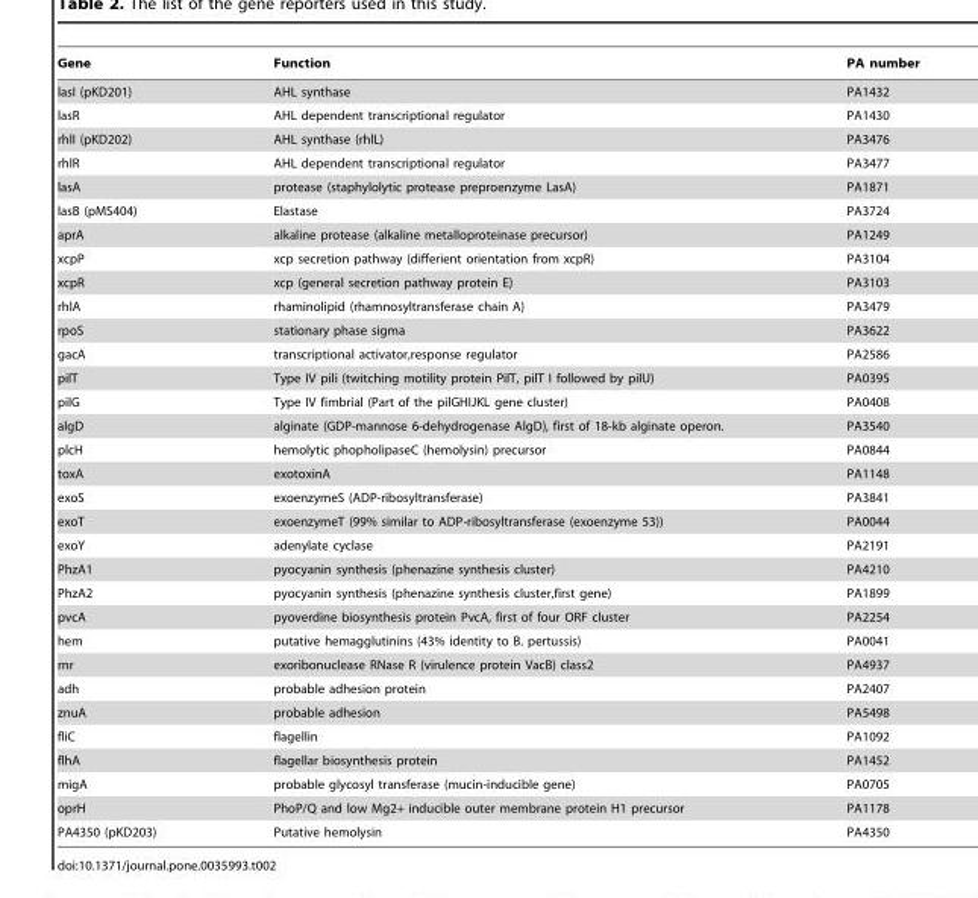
<table><thead><tr><td>Gene</td><td>Function</td><td>PA number</td></tr></thead><tbody><tr><td>lasI (pKD201)</td><td>AHL synthase</td><td>PA1432</td></tr><tr><td>lasR</td><td>AHL dependent transcriptional regulator</td><td>PA1430</td></tr><tr><td>rhlI (pKD202)</td><td>AHL synthase (rhlL)</td><td>PA3476</td></tr><tr><td>rhlR</td><td>AHL dependent transcriptional regulator</td><td>PA3477</td></tr><tr><td>lasA</td><td>protease (staphylolytic protease preproenzyme LasA)</td><td>PA1871</td></tr><tr><td>lasB (pMS404)</td><td>Elastase</td><td>PA3724</td></tr><tr><td>aprA</td><td>alkaline protease (alkaline metalloproteinase precursor)</td><td>PA1249</td></tr><tr><td>xcpP</td><td>xcp secretion pathway (differient orientation from xcpR)</td><td>PA3104</td></tr><tr><td>xcpR</td><td>xcp (general secretion pathway protein E)</td><td>PA3103</td></tr><tr><td>rhlA</td><td>rhaminolipid (rhamnosyltransferase chain A)</td><td>PA3479</td></tr><tr><td>rpoS</td><td>stationary phase sigma</td><td>PA3622</td></tr><tr><td>gacA</td><td>transcriptional activator,response regulator</td><td>PA2586</td></tr><tr><td>pilT</td><td>Type IV pili (twitching motility protein PilT, pilT I followed by pilU)</td><td>PA0395</td></tr><tr><td>pilG</td><td>Type IV fimbrial (Part of the pilGHIJKL gene cluster)</td><td>PA0408</td></tr><tr><td>algD</td><td>alginate (GDP-mannose 6-dehydrogenase AlgD), first of 18-kb alginate operon.</td><td>PA3540</td></tr><tr><td>plcH</td><td>hemolytic phopholipaseC (hemolysin) precursor</td><td>PA0844</td></tr><tr><td>toxA</td><td>exotoxinA</td><td>PA1148</td></tr><tr><td>exoS</td><td>exoenzymeS (ADP-ribosyltransferase)</td><td>PA3841</td></tr><tr><td>exoT</td><td>exoenzymeT (99% similar to ADP-ribosyltransferase (exoenzyme 53))</td><td>PA0044</td></tr><tr><td>exoY</td><td>adenylate cyclase</td><td>PA2191</td></tr><tr><td>PhzA1</td><td>pyocyanin synthesis (phenazine synthesis cluster)</td><td>PA4210</td></tr><tr><td>PhzA2</td><td>pyocyanin synthesis (phenazine synthesis cluster,first gene)</td><td>PA1899</td></tr><tr><td>pvcA</td><td>pyoverdine biosynthesis protein PvcA, first of four ORF cluster</td><td>PA2254</td></tr><tr><td>hem</td><td>putative hemagglutinins (43% identity to B. pertussis)</td><td>PA0041</td></tr><tr><td>rnr</td><td>exoribonuclease RNase R (virulence protein VacB) class2</td><td>PA4937</td></tr><tr><td>adh</td><td>probable adhesion protein</td><td>PA2407</td></tr><tr><td>znuA</td><td>probable adhesion</td><td>PA5498</td></tr><tr><td>fliC</td><td>flagellin</td><td>PA1092</td></tr><tr><td>flhA</td><td>flagellar biosynthesis protein</td><td>PA1452</td></tr><tr><td>migA</td><td>probable glycosyl transferase (mucin-inducible gene)</td><td>PA0705</td></tr><tr><td>oprH</td><td>PhoP/Q and low Mg2+ inducible outer membrane protein H1 precursor</td><td>PA1178</td></tr><tr><td>PA4350 (pKD203)</td><td>Putative hemolysin</td><td>PA4350</td></tr></tbody></table>